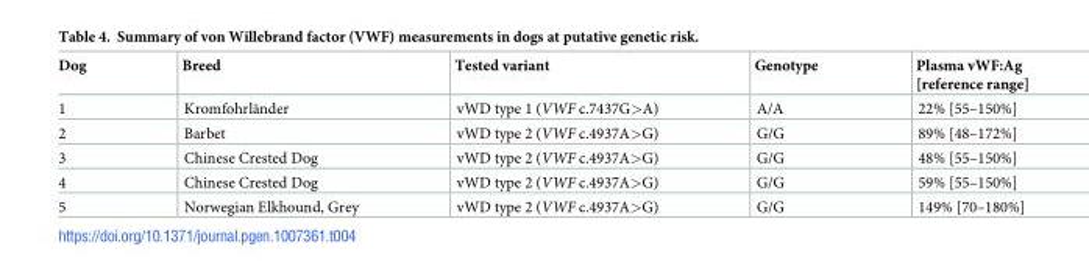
<table><thead><tr><td>Dog</td><td>Breed</td><td>Tested variant</td><td>Genotype</td><td>Plasma vWF:Ag [reference range]</td></tr></thead><tbody><tr><td>1</td><td>Kromfohrla¨nder</td><td>vWD type 1 (VWF c.7437G&gt;A)</td><td>A/A</td><td>22% [55–150%]</td></tr><tr><td>2</td><td>Barbet</td><td>vWD type 2 (VWF c.4937A&gt;G)</td><td>G/G</td><td>89% [48–172%]</td></tr><tr><td>3</td><td>Chinese Crested Dog</td><td>vWD type 2 (VWF c.4937A&gt;G)</td><td>G/G</td><td>48% [55–150%]</td></tr><tr><td>4</td><td>Chinese Crested Dog</td><td>vWD type 2 (VWF c.4937A&gt;G)</td><td>G/G</td><td>59% [55–150%]</td></tr><tr><td>5</td><td>Norwegian Elkhound, Grey</td><td>vWD type 2 (VWF c.4937A&gt;G)</td><td>G/G</td><td>149% [70–180%]</td></tr></tbody></table>